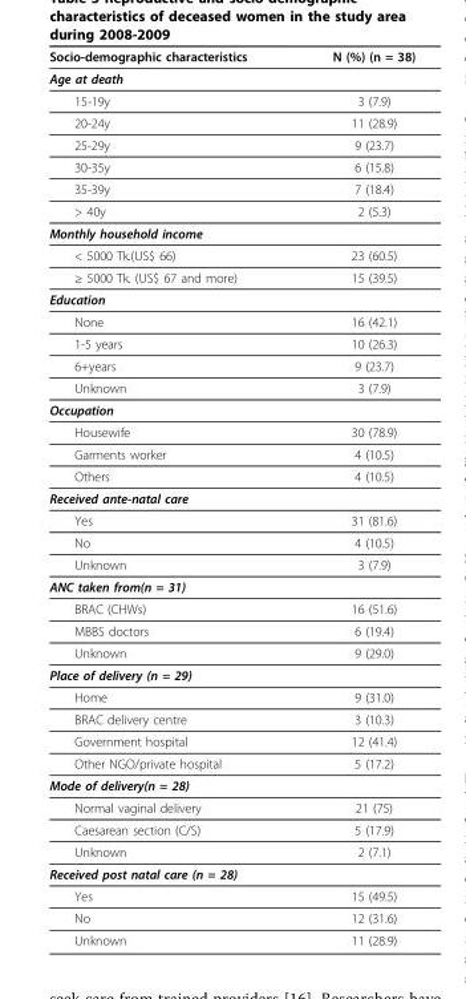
<table><thead><tr><td>Socio-demographic characteristics</td><td>N (%) (n = 38)</td></tr></thead><tbody><tr><td colspan="2">Age at death</td></tr><tr><td>15-19y</td><td>3 (7.9)</td></tr><tr><td>20-24y</td><td>11 (28.9)</td></tr><tr><td>25-29y</td><td>9 (23.7)</td></tr><tr><td>30-35y</td><td>6 (15.8)</td></tr><tr><td>35-39y</td><td>7 (18.4)</td></tr><tr><td>&gt; 40y</td><td>2 (5.3)</td></tr><tr><td colspan="2">Monthly household income</td></tr><tr><td>&lt; 5000 Tk.(US$ 66)</td><td>23 (60.5)</td></tr><tr><td>≥ 5000 Tk. (US$ 67 and more)</td><td>15 (39.5)</td></tr><tr><td colspan="2">Education</td></tr><tr><td>None</td><td>16 (42.1)</td></tr><tr><td>1-5 years</td><td>10 (26.3)</td></tr><tr><td>6+years</td><td>9 (23.7)</td></tr><tr><td>Unknown</td><td>3 (7.9)</td></tr><tr><td colspan="2">Occupation</td></tr><tr><td>Housewife</td><td>30 (78.9)</td></tr><tr><td>Garments worker</td><td>4 (10.5)</td></tr><tr><td>Others</td><td>4 (10.5)</td></tr><tr><td colspan="2">Received ante-natal care</td></tr><tr><td>Yes</td><td>31 (81.6)</td></tr><tr><td>No</td><td>4 (10.5)</td></tr><tr><td>Unknown</td><td>3 (7.9)</td></tr><tr><td colspan="2">ANC taken from(n = 31)</td></tr><tr><td>BRAC (CHWs)</td><td>16 (51.6)</td></tr><tr><td>MBBS doctors</td><td>6 (19.4)</td></tr><tr><td>Unknown</td><td>9 (29.0)</td></tr><tr><td colspan="2">Place of delivery (n = 29)</td></tr><tr><td>Home</td><td>9 (31.0)</td></tr><tr><td>BRAC delivery centre</td><td>3 (10.3)</td></tr><tr><td>Government hospital</td><td>12 (41.4)</td></tr><tr><td>Other NGO/private hospital</td><td>5 (17.2)</td></tr><tr><td colspan="2">Mode of delivery(n = 28)</td></tr><tr><td>Normal vaginal delivery</td><td>21 (75)</td></tr><tr><td>Caesarean section (C/S)</td><td>5 (17.9)</td></tr><tr><td>Unknown</td><td>2 (7.1)</td></tr><tr><td colspan="2">Received post natal care (n = 28)</td></tr><tr><td>Yes</td><td>15 (49.5)</td></tr><tr><td>No</td><td>12 (31.6)</td></tr><tr><td>Unknown</td><td>11 (28.9)</td></tr></tbody></table>